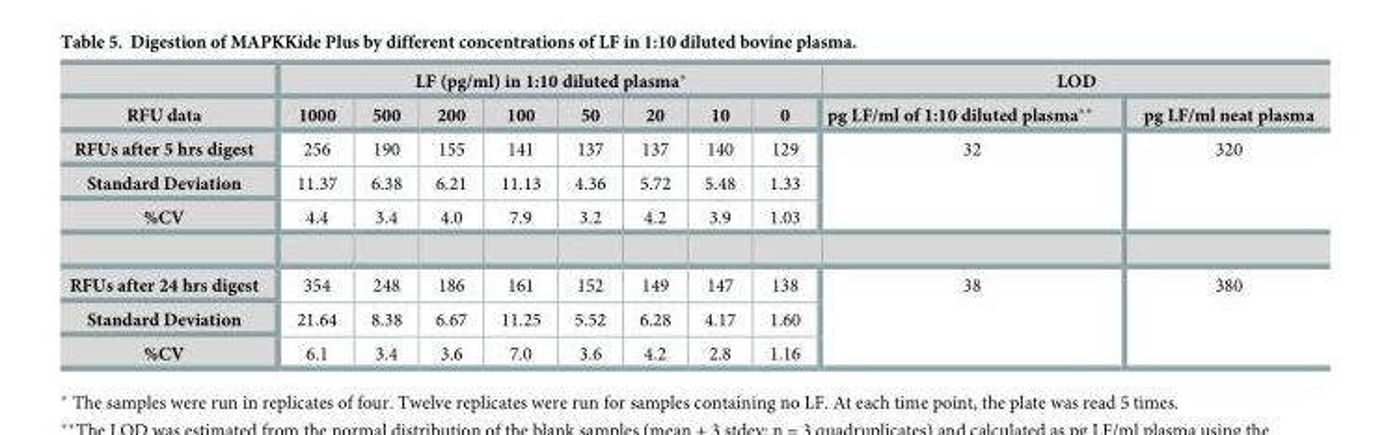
<table><thead><tr><td rowspan="2">RFU data</td><td colspan="8">LF (pg/ml) in 1:10 diluted plasma*</td><td colspan="2">LOD</td></tr><tr><td>1000</td><td>500</td><td>200</td><td>100</td><td>50</td><td>20</td><td>10</td><td>0</td><td>pg LF/ml of 1:10 diluted plasma**</td><td>pg LF/ml neat plasma</td></tr></thead><tbody><tr><td>RFUs after 5 hrs digest</td><td>256</td><td>190</td><td>155</td><td>141</td><td>137</td><td>137</td><td>140</td><td>129</td><td rowspan="3">32</td><td rowspan="3">320</td></tr><tr><td>Standard Deviation</td><td>11.37</td><td>6.38</td><td>6.21</td><td>11.13</td><td>4.36</td><td>5.72</td><td>5.48</td><td>1.33</td></tr><tr><td>%CV</td><td>4.4</td><td>3.4</td><td>4.0</td><td>7.9</td><td>3.2</td><td>4.2</td><td>3.9</td><td>1.03</td></tr><tr><td>RFUs after 24 hrs digest</td><td>354</td><td>248</td><td>186</td><td>161</td><td>152</td><td>149</td><td>147</td><td>138</td><td rowspan="3">38</td><td rowspan="3">380</td></tr><tr><td>Standard Deviation</td><td>21.64</td><td>8.38</td><td>6.67</td><td>11.25</td><td>5.52</td><td>6.28</td><td>4.17</td><td>1.60</td></tr><tr><td>%CV</td><td>6.1</td><td>3.4</td><td>3.6</td><td>7.0</td><td>3.6</td><td>4.2</td><td>2.8</td><td>1.16</td></tr></tbody></table>